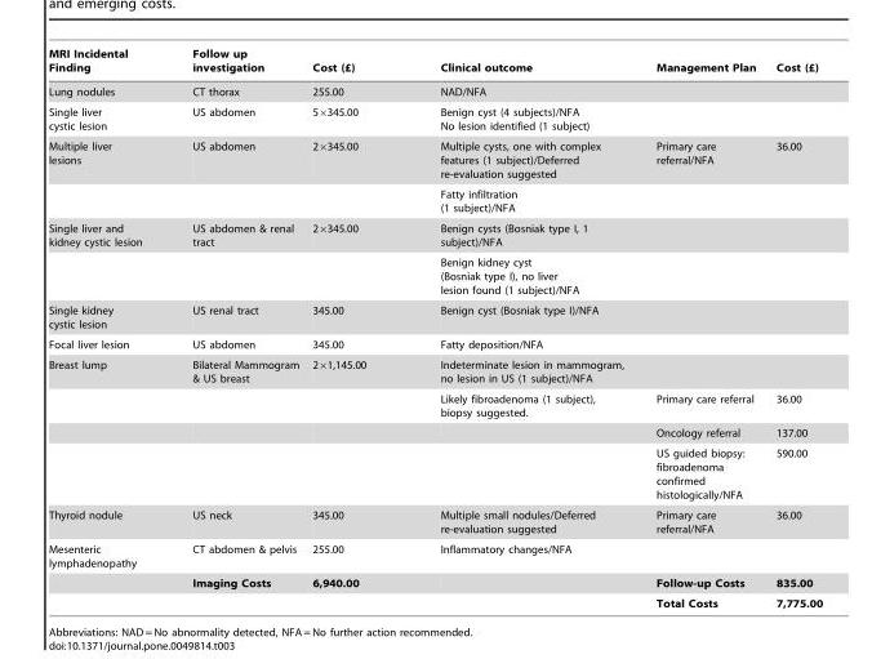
<table><thead><tr><td>MRI Incidental Finding</td><td>Follow up investigation</td><td>Cost (£)</td><td>Clinical outcome</td><td>Management Plan</td><td>Cost (£)</td></tr></thead><tbody><tr><td>Lung nodules</td><td>CT thorax</td><td>255.00</td><td>NAD/NFA</td><td></td><td></td></tr><tr><td>Single liver cystic lesion</td><td>US abdomen</td><td>5×345.00</td><td>Benign cyst (4 subjects)/NFA No lesion identified (1 subject)</td><td></td><td></td></tr><tr><td rowspan="2">Multiple liver lesions</td><td>US abdomen</td><td>2×345.00</td><td>Multiple cysts, one with complex features (1 subject)/Deferred re-evaluation suggested</td><td>Primary care referral/NFA</td><td>36.00</td></tr><tr><td></td><td></td><td>Fatty infiltration (1 subject)/NFA</td><td></td><td></td></tr><tr><td rowspan="2">Single liver and kidney cystic lesion</td><td>US abdomen &amp; renal tract</td><td>2×345.00</td><td>Benign cysts (Bosniak type I, 1 subject)/NFA</td><td></td><td></td></tr><tr><td></td><td></td><td>Benign kidney cyst (Bosniak type I), no liver lesion found (1 subject)/NFA</td><td></td><td></td></tr><tr><td>Single kidney cystic lesion</td><td>US renal tract</td><td>345.00</td><td>Benign cyst (Bosniak type I)/NFA</td><td></td><td></td></tr><tr><td>Focal liver lesion</td><td>US abdomen</td><td>345.00</td><td>Fatty deposition/NFA</td><td></td><td></td></tr><tr><td rowspan="4">Breast lump</td><td>Bilateral Mammogram &amp; US breast</td><td>2×1,145.00</td><td>Indeterminate lesion in mammogram, no lesion in US (1 subject)/NFA</td><td></td><td></td></tr><tr><td></td><td></td><td>Likely fibroadenoma (1 subject), biopsy suggested.</td><td>Primary care referral</td><td>36.00</td></tr><tr><td></td><td></td><td></td><td>Oncology referral</td><td>137.00</td></tr><tr><td></td><td></td><td></td><td>US guided biopsy: fibroadenoma confirmed histologically/NFA</td><td>590.00</td></tr><tr><td>Thyroid nodule</td><td>US neck</td><td>345.00</td><td>Multiple small nodules/Deferred re-evaluation suggested</td><td>Primary care referral/NFA</td><td>36.00</td></tr><tr><td rowspan="2">Mesenteric lymphadenopathy</td><td>CT abdomen &amp; pelvis</td><td>255.00</td><td>Inflammatory changes/NFA</td><td></td><td></td></tr><tr><td>Imaging Costs</td><td>6,940.00</td><td></td><td>Follow-up Costs</td><td>835.00</td></tr><tr><td colspan="4"></td><td>Total Costs</td><td>7,775.00</td></tr></tbody></table>